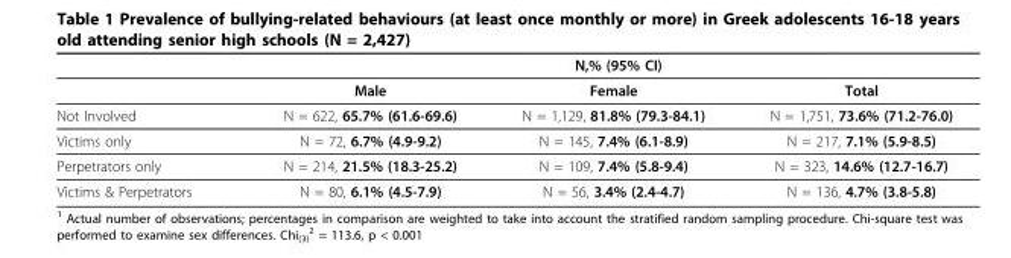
<table><thead><tr><td rowspan="2"></td><td colspan="3">N,% (95% CI)</td></tr><tr><td>Male</td><td>Female</td><td>Total</td></tr></thead><tbody><tr><td>Not Involved</td><td>N = 622, 65.7% (61.6-69.6)</td><td>N = 1,129, 81.8% (79.3-84.1)</td><td>N = 1,751, 73.6% (71.2-76.0)</td></tr><tr><td>Victims only</td><td>N = 72, 6.7% (4.9-9.2)</td><td>N = 145, 7.4% (6.1-8.9)</td><td>N = 217, 7.1% (5.9-8.5)</td></tr><tr><td>Perpetrators only</td><td>N = 214, 21.5% (18.3-25.2)</td><td>N = 109, 7.4% (5.8-9.4)</td><td>N = 323, 14.6% (12.7-16.7)</td></tr><tr><td>Victims &amp; Perpetrators</td><td>N = 80, 6.1% (4.5-7.9)</td><td>N = 56, 3.4% (2.4-4.7)</td><td>N = 136, 4.7% (3.8-5.8)</td></tr></tbody></table>